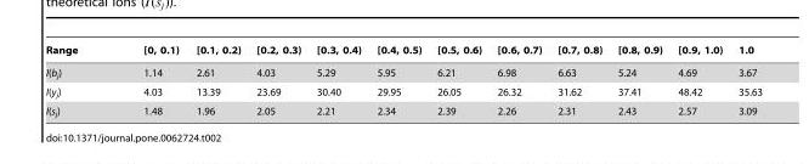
<table><thead><tr><td>Range</td><td>[0, 0.1)</td><td>[0.1, 0.2)</td><td>[0.2, 0.3)</td><td>[0.3, 0.4)</td><td>[0.4, 0.5)</td><td>[0.5, 0.6)</td><td>[0.6, 0.7)</td><td>[0.7, 0.8)</td><td>[0.8, 0.9)</td><td>[0.9, 1.0)</td><td>1.0</td></tr></thead><tbody><tr><td>I(b<sub>j</sub>)</td><td>1.14</td><td>2.61</td><td>4.03</td><td>5.29</td><td>5.95</td><td>6.21</td><td>6.98</td><td>6.63</td><td>5.24</td><td>4.69</td><td>3.67</td></tr><tr><td>I(y<sub>j</sub>)</td><td>4.03</td><td>13.39</td><td>23.69</td><td>30.40</td><td>29.95</td><td>26.05</td><td>26.32</td><td>31.62</td><td>37.41</td><td>48.42</td><td>35.63</td></tr><tr><td>I(s<sub>j</sub>)</td><td>1.48</td><td>1.96</td><td>2.05</td><td>2.21</td><td>2.34</td><td>2.39</td><td>2.26</td><td>2.31</td><td>2.43</td><td>2.57</td><td>3.09</td></tr></tbody></table>